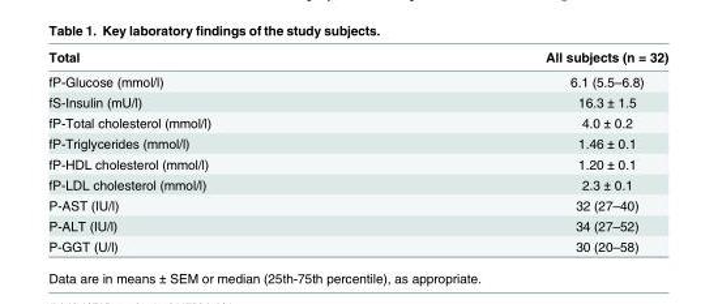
<table><thead><tr><td>Total</td><td>All subjects (n = 32)</td></tr></thead><tbody><tr><td>fP-Glucose (mmol/l)</td><td>6.1 (5.5–6.8)</td></tr><tr><td>fS-Insulin (mU/l)</td><td>16.3 ± 1.5</td></tr><tr><td>fP-Total cholesterol (mmol/l)</td><td>4.0 ± 0.2</td></tr><tr><td>fP-Triglycerides (mmol/l)</td><td>1.46 ± 0.1</td></tr><tr><td>fP-HDL cholesterol (mmol/l)</td><td>1.20 ± 0.1</td></tr><tr><td>fP-LDL cholesterol (mmol/l)</td><td>2.3 ± 0.1</td></tr><tr><td>P-AST (IU/l)</td><td>32 (27–40)</td></tr><tr><td>P-ALT (IU/l)</td><td>34 (27–52)</td></tr><tr><td>P-GGT (U/l)</td><td>30 (20–58)</td></tr></tbody></table>